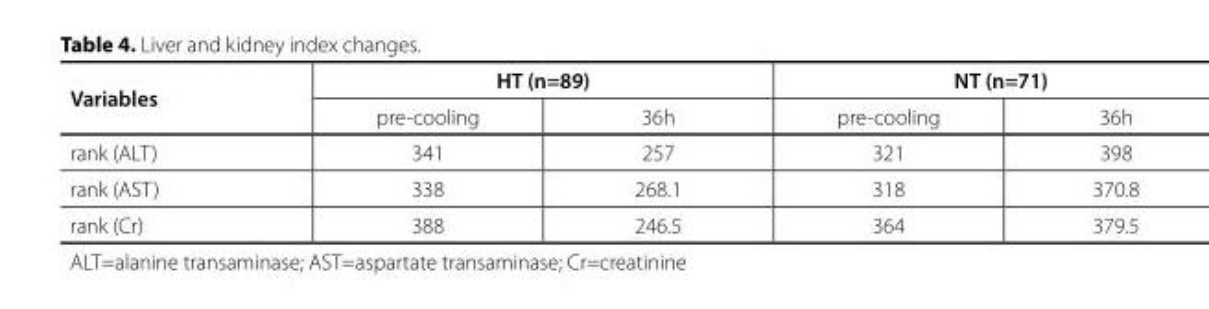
<table><thead><tr><td rowspan="2">Variables</td><td colspan="2">HT (n=89)</td><td colspan="2">NT (n=71)</td></tr><tr><td>pre-cooling</td><td>36h</td><td>pre-cooling</td><td>36h</td></tr></thead><tbody><tr><td>rank (ALT)</td><td>341</td><td>257</td><td>321</td><td>398</td></tr><tr><td>rank (AST)</td><td>338</td><td>268.1</td><td>318</td><td>370.8</td></tr><tr><td>rank (Cr)</td><td>388</td><td>246.5</td><td>364</td><td>379.5</td></tr></tbody></table>